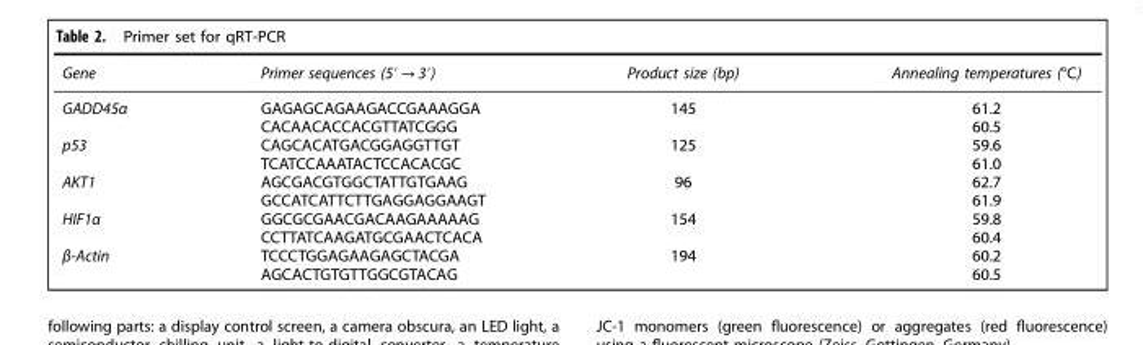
<table><thead><tr><td>Gene</td><td>Primer sequences (5′ → 3′)</td><td>Product size (bp)</td><td>Annealing temperatures (°C)</td></tr></thead><tbody><tr><td rowspan="2">GADD45α</td><td>GAGAGCAGAAGACCGAAAGGA</td><td>145</td><td>61.2</td></tr><tr><td>CACAACACCACGTTATCGGG</td><td></td><td>60.5</td></tr><tr><td rowspan="2">p53</td><td>CAGCACATGACGGAGGTTGT</td><td>125</td><td>59.6</td></tr><tr><td>TCATCCAAATACTCCACACGC</td><td></td><td>61.0</td></tr><tr><td rowspan="2">AKT1</td><td>AGCGACGTGGCTATTGTGAAG</td><td>96</td><td>62.7</td></tr><tr><td>GCCATCATTCTTGAGGAGGAAGT</td><td></td><td>61.9</td></tr><tr><td rowspan="2">HIF1α</td><td>GGCGCGAACGACAAGAAAAAG</td><td>154</td><td>59.8</td></tr><tr><td>CCTTATCAAGATGCGAACTCACA</td><td></td><td>60.4</td></tr><tr><td rowspan="2">β-Actin</td><td>TCCCTGGAGAAGAGCTACGA</td><td>194</td><td>60.2</td></tr><tr><td>AGCACTGTGTTGGCGTACAG</td><td></td><td>60.5</td></tr></tbody></table>